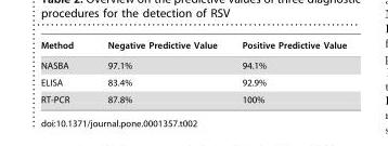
<table><thead><tr><td>Method</td><td>Negative Predictive Value</td><td>Positive Predictive Value</td></tr></thead><tbody><tr><td>NASBA</td><td>97.1%</td><td>94.1%</td></tr><tr><td>ELISA</td><td>83.4%</td><td>92.9%</td></tr><tr><td>RT-PCR</td><td>87.8%</td><td>100%</td></tr></tbody></table>